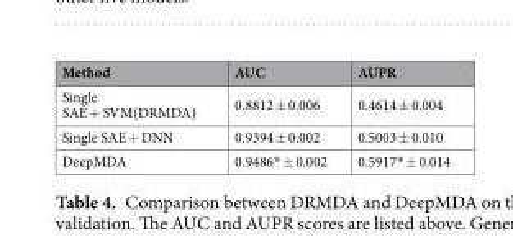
<table><thead><tr><td>Method</td><td>AUC</td><td>AUPR</td></tr></thead><tbody><tr><td>Single SAE + SVM(DRMDA)</td><td>0.8812 ± 0.006</td><td>0.4614 ± 0.004</td></tr><tr><td>Single SAE + DNN</td><td>0.9394 ± 0.002</td><td>0.5003 ± 0.010</td></tr><tr><td>DeepMDA</td><td>0.9486* ± 0.002</td><td>0.5917* ± 0.014</td></tr></tbody></table>